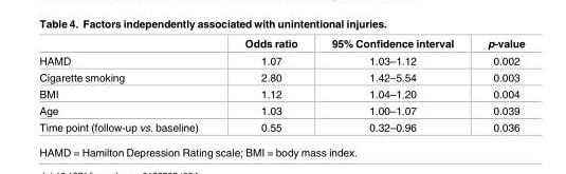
<table><thead><tr><td></td><td>Odds ratio</td><td>95% Confidence interval</td><td>p-value</td></tr></thead><tbody><tr><td>HAMD</td><td>1.07</td><td>1.03–1.12</td><td>0.002</td></tr><tr><td>Cigarette smoking</td><td>2.80</td><td>1.42–5.54</td><td>0.003</td></tr><tr><td>BMI</td><td>1.12</td><td>1.04–1.20</td><td>0.004</td></tr><tr><td>Age</td><td>1.03</td><td>1.00–1.07</td><td>0.039</td></tr><tr><td>Time point (follow-up vs. baseline)</td><td>0.55</td><td>0.32–0.96</td><td>0.036</td></tr></tbody></table>